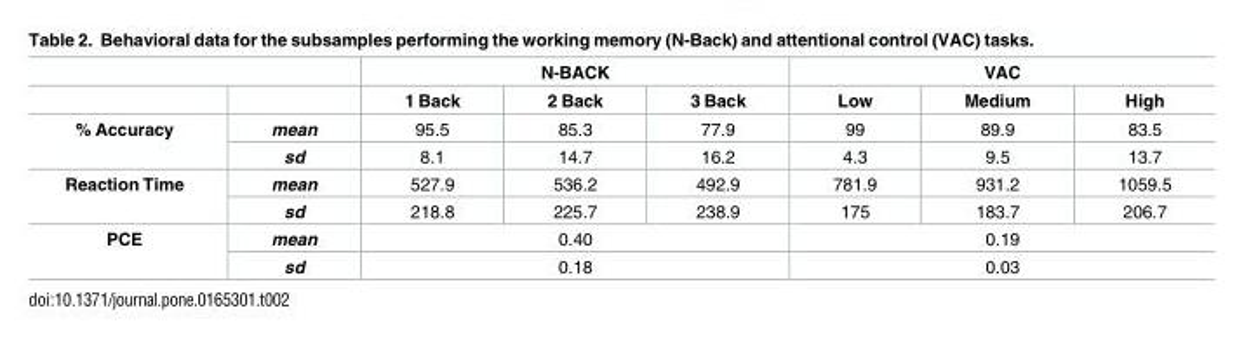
<table><thead><tr><td rowspan="2"></td><td rowspan="2"></td><td colspan="3">N-BACK</td><td colspan="3">VAC</td></tr><tr><td>1 Back</td><td>2 Back</td><td>3 Back</td><td>Low</td><td>Medium</td><td>High</td></tr></thead><tbody><tr><td rowspan="2">% Accuracy</td><td>mean</td><td>95.5</td><td>85.3</td><td>77.9</td><td>99</td><td>89.9</td><td>83.5</td></tr><tr><td>sd</td><td>8.1</td><td>14.7</td><td>16.2</td><td>4.3</td><td>9.5</td><td>13.7</td></tr><tr><td rowspan="2">Reaction Time</td><td>mean</td><td>527.9</td><td>536.2</td><td>492.9</td><td>781.9</td><td>931.2</td><td>1059.5</td></tr><tr><td>sd</td><td>218.8</td><td>225.7</td><td>238.9</td><td>175</td><td>183.7</td><td>206.7</td></tr><tr><td rowspan="2">PCE</td><td>mean</td><td colspan="3">0.40</td><td colspan="3">0.19</td></tr><tr><td>sd</td><td colspan="3">0.18</td><td colspan="3">0.03</td></tr></tbody></table>